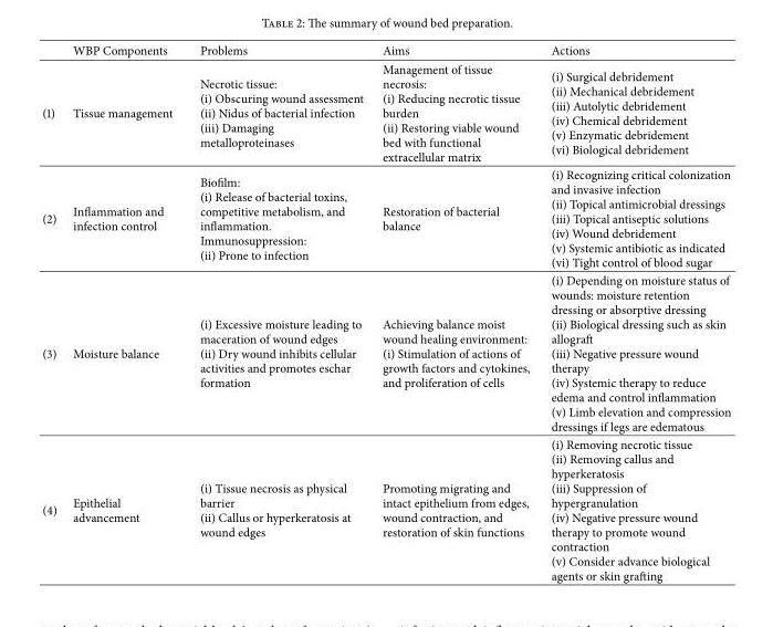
<table><thead><tr><td></td><td>WBP Components</td><td>Problems</td><td>Aims</td><td>Actions</td></tr></thead><tbody><tr><td>(1)</td><td>Tissue management</td><td>Necrotic tissue: (i) Obscuring wound assessment (ii) Nidus of bacterial infection (iii) Damaging metalloproteinases</td><td>Management of tissue necrosis: (i) Reducing necrotic tissue burden (ii) Restoring viable wound bed with functional extracellular matrix</td><td>(i) Surgical debridement (ii) Mechanical debridement (iii) Autolytic debridement (iv) Chemical debridement (v) Enzymatic debridement (vi) Biological debridement</td></tr><tr><td>(2)</td><td>Inflammation and infection control</td><td>Biofilm: (i) Release of bacterial toxins, competitive metabolism, and inflammation. Immunosuppression: (ii) Prone to infection</td><td>Restoration of bacterial balance</td><td>(i) Recognizing critical colonization and invasive infection (ii) Topical antimicrobial dressings (iii) Topical antiseptic solutions (iv) Wound debridement (v) Systemic antibiotic as indicated (vi) Tight control of blood sugar</td></tr><tr><td>(3)</td><td>Moisture balance</td><td>(i) Excessive moisture leading to maceration of wound edges (ii) Dry wound inhibits cellular activities and promotes eschar formation</td><td>Achieving balance moist wound healing environment: (i) Stimulation of actions of growth factors and cytokines, and proliferation of cells</td><td>(i) Depending on moisture status of wounds: moisture retention dressing or absorptive dressing (ii) Biological dressing such as skin allograft (iii) Negative pressure wound therapy (iv) Systemic therapy to reduce edema and control inflammation (v) Limb elevation and compression dressings if legs are edematous</td></tr><tr><td>(4)</td><td>Epithelial advancement</td><td>(i) Tissue necrosis as physical barrier (ii) Callus or hyperkeratosis at wound edges</td><td>Promoting migrating and intact epithelium from edges, wound contraction, and restoration of skin functions</td><td>(i) Removing necrotic tissue (ii) Removing callus and hyperkeratosis (iii) Suppression of hypergranulation (iv) Negative pressure wound therapy to promote wound contraction (v) Consider advance biological agents or skin grafting</td></tr></tbody></table>